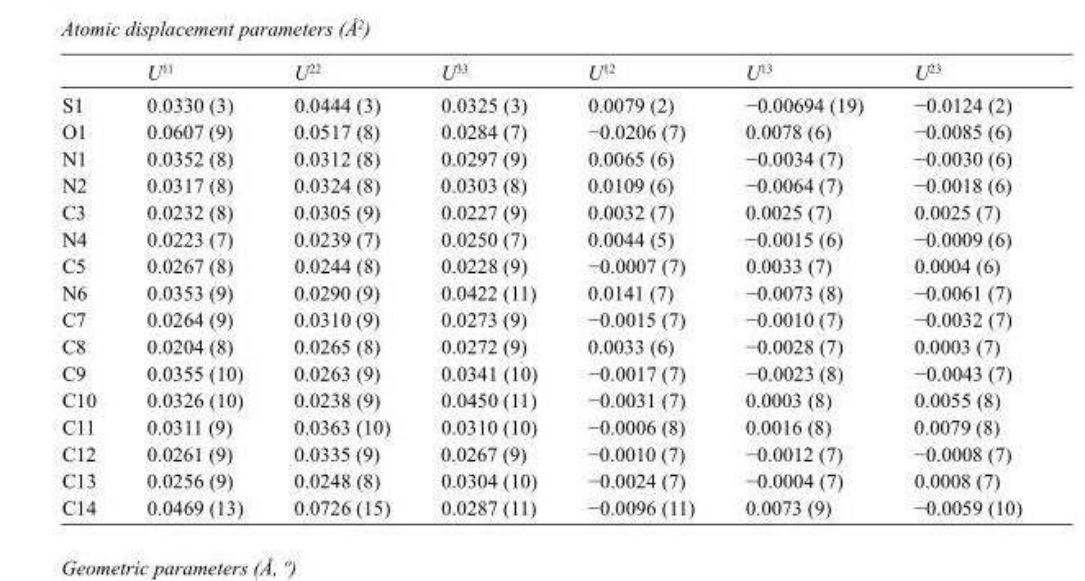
<table><thead><tr><td></td><td>U<sup>11</sup></td><td>U<sup>22</sup></td><td>U<sup>33</sup></td><td>U<sup>12</sup></td><td>U<sup>13</sup></td><td>U<sup>23</sup></td></tr></thead><tbody><tr><td>S1</td><td>0.0330 (3)</td><td>0.0444 (3)</td><td>0.0325 (3)</td><td>0.0079 (2)</td><td>−0.00694 (19)</td><td>−0.0124 (2)</td></tr><tr><td>O1</td><td>0.0607 (9)</td><td>0.0517 (8)</td><td>0.0284 (7)</td><td>−0.0206 (7)</td><td>0.0078 (6)</td><td>−0.0085 (6)</td></tr><tr><td>N1</td><td>0.0352 (8)</td><td>0.0312 (8)</td><td>0.0297 (9)</td><td>0.0065 (6)</td><td>−0.0034 (7)</td><td>−0.0030 (6)</td></tr><tr><td>N2</td><td>0.0317 (8)</td><td>0.0324 (8)</td><td>0.0303 (8)</td><td>0.0109 (6)</td><td>−0.0064 (7)</td><td>−0.0018 (6)</td></tr><tr><td>C3</td><td>0.0232 (8)</td><td>0.0305 (9)</td><td>0.0227 (9)</td><td>0.0032 (7)</td><td>0.0025 (7)</td><td>0.0025 (7)</td></tr><tr><td>N4</td><td>0.0223 (7)</td><td>0.0239 (7)</td><td>0.0250 (7)</td><td>0.0044 (5)</td><td>−0.0015 (6)</td><td>−0.0009 (6)</td></tr><tr><td>C5</td><td>0.0267 (8)</td><td>0.0244 (8)</td><td>0.0228 (9)</td><td>−0.0007 (7)</td><td>0.0033 (7)</td><td>0.0004 (6)</td></tr><tr><td>N6</td><td>0.0353 (9)</td><td>0.0290 (9)</td><td>0.0422 (11)</td><td>0.0141 (7)</td><td>−0.0073 (8)</td><td>−0.0061 (7)</td></tr><tr><td>C7</td><td>0.0264 (9)</td><td>0.0310 (9)</td><td>0.0273 (9)</td><td>−0.0015 (7)</td><td>−0.0010 (7)</td><td>−0.0032 (7)</td></tr><tr><td>C8</td><td>0.0204 (8)</td><td>0.0265 (8)</td><td>0.0272 (9)</td><td>0.0033 (6)</td><td>−0.0028 (7)</td><td>0.0003 (7)</td></tr><tr><td>C9</td><td>0.0355 (10)</td><td>0.0263 (9)</td><td>0.0341 (10)</td><td>−0.0017 (7)</td><td>−0.0023 (8)</td><td>−0.0043 (7)</td></tr><tr><td>C10</td><td>0.0326 (10)</td><td>0.0238 (9)</td><td>0.0450 (11)</td><td>−0.0031 (7)</td><td>0.0003 (8)</td><td>0.0055 (8)</td></tr><tr><td>C11</td><td>0.0311 (9)</td><td>0.0363 (10)</td><td>0.0310 (10)</td><td>−0.0006 (8)</td><td>0.0016 (8)</td><td>0.0079 (8)</td></tr><tr><td>C12</td><td>0.0261 (9)</td><td>0.0335 (9)</td><td>0.0267 (9)</td><td>−0.0010 (7)</td><td>−0.0012 (7)</td><td>−0.0008 (7)</td></tr><tr><td>C13</td><td>0.0256 (9)</td><td>0.0248 (8)</td><td>0.0304 (10)</td><td>−0.0024 (7)</td><td>−0.0004 (7)</td><td>0.0008 (7)</td></tr><tr><td>C14</td><td>0.0469 (13)</td><td>0.0726 (15)</td><td>0.0287 (11)</td><td>−0.0096 (11)</td><td>0.0073 (9)</td><td>−0.0059 (10)</td></tr></tbody></table>